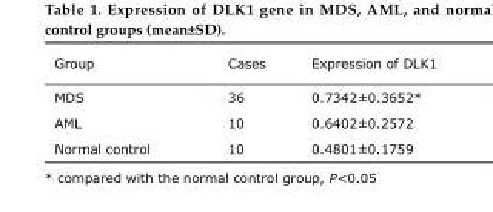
<table><thead><tr><td>Group</td><td>Cases</td><td>Expression of DLK1</td></tr></thead><tbody><tr><td>MDS</td><td>36</td><td>0.7342±0.3652*</td></tr><tr><td>AML</td><td>10</td><td>0.6402±0.2572</td></tr><tr><td>Normal control</td><td>10</td><td>0.4801±0.1759</td></tr></tbody></table>